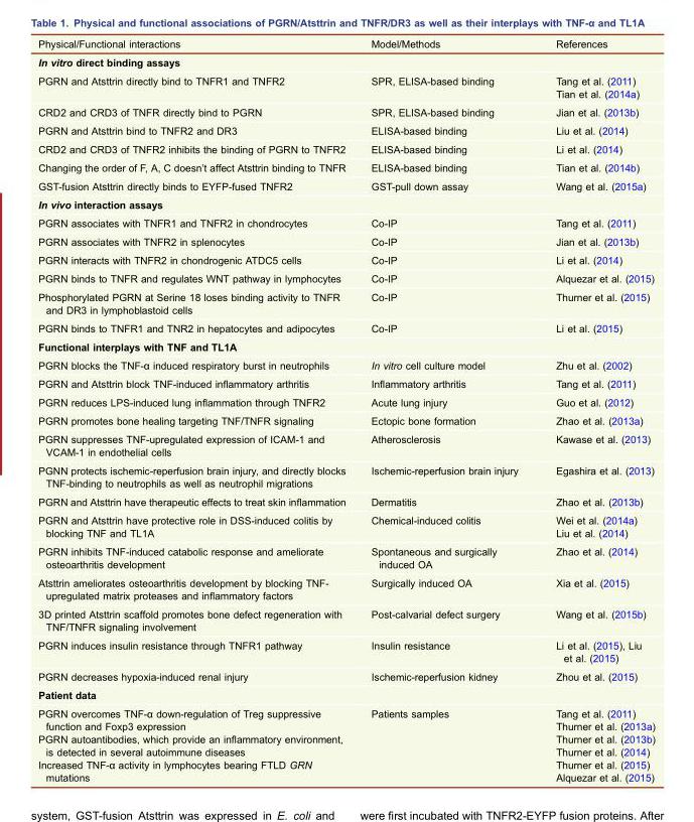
<table><thead><tr><td>Physical/Functional interactions</td><td>Model/Methods</td><td>References</td></tr></thead><tbody><tr><td colspan="3">In vitro direct binding assays</td></tr><tr><td>PGRN and Atsttrin directly bind to TNFR1 and TNFR2</td><td>SPR, ELISA-based binding</td><td>Tang et al. (2011) Tian et al. (2014a)</td></tr><tr><td>CRD2 and CRD3 of TNFR directly bind to PGRN</td><td>SPR, ELISA-based binding</td><td>Jian et al. (2013b)</td></tr><tr><td>PGRN and Atsttrin bind to TNFR2 and DR3</td><td>ELISA-based binding</td><td>Liu et al. (2014)</td></tr><tr><td>CRD2 and CRD3 of TNFR2 inhibits the binding of PGRN to TNFR2</td><td>ELISA-based binding</td><td>Li et al. (2014)</td></tr><tr><td>Changing the order of F, A, C doesn’t affect Atsttrin binding to TNFR</td><td>ELISA-based binding</td><td>Tian et al. (2014b)</td></tr><tr><td>GST-fusion Atsttrin directly binds to EYFP-fused TNFR2</td><td>GST-pull down assay</td><td>Wang et al. (2015a)</td></tr><tr><td colspan="3">In vivo interaction assays</td></tr><tr><td>PGRN associates with TNFR1 and TNFR2 in chondrocytes</td><td>Co-IP</td><td>Tang et al. (2011)</td></tr><tr><td>PGRN associates with TNFR2 in splenocytes</td><td>Co-IP</td><td>Jian et al. (2013b)</td></tr><tr><td>PGRN interacts with TNFR2 in chondrogenic ATDC5 cells</td><td>Co-IP</td><td>Li et al. (2014)</td></tr><tr><td>PGRN binds to TNFR and regulates WNT pathway in lymphocytes</td><td>Co-IP</td><td>Alquezar et al. (2015)</td></tr><tr><td>Phosphorylated PGRN at Serine 18 loses binding activity to TNFR and DR3 in lymphoblastoid cells</td><td>Co-IP</td><td>Thurner et al. (2015)</td></tr><tr><td>PGRN binds to TNFR1 and TNR2 in hepatocytes and adipocytes</td><td>Co-IP</td><td>Li et al. (2015)</td></tr><tr><td colspan="3">Functional interplays with TNF and TL1A</td></tr><tr><td>PGRN blocks the TNF-α induced respiratory burst in neutrophils</td><td>In vitro cell culture model</td><td>Zhu et al. (2002)</td></tr><tr><td>PGRN and Atsttrin block TNF-induced inflammatory arthritis</td><td>Inflammatory arthritis</td><td>Tang et al. (2011)</td></tr><tr><td>PGRN reduces LPS-induced lung inflammation through TNFR2</td><td>Acute lung injury</td><td>Guo et al. (2012)</td></tr><tr><td>PGRN promotes bone healing targeting TNF/TNFR signaling</td><td>Ectopic bone formation</td><td>Zhao et al. (2013a)</td></tr><tr><td>PGRN suppresses TNF-upregulated expression of ICAM-1 and VCAM-1 in endothelial cells</td><td>Atherosclerosis</td><td>Kawase et al. (2013)</td></tr><tr><td>PGNN protects ischemic-reperfusion brain injury, and directly blocks TNF-binding to neutrophils as well as neutrophil migrations</td><td>Ischemic-reperfusion brain injury</td><td>Egashira et al. (2013)</td></tr><tr><td>PGRN and Atsttrin have therapeutic effects to treat skin inflammation</td><td>Dermatitis</td><td>Zhao et al. (2013b)</td></tr><tr><td>PGRN and Atsttrin have protective role in DSS-induced colitis by blocking TNF and TL1A</td><td>Chemical-induced colitis</td><td>Wei et al. (2014a) Liu et al. (2014)</td></tr><tr><td>PGRN inhibits TNF-induced catabolic response and ameliorate osteoarthritis development</td><td>Spontaneous and surgically induced OA</td><td>Zhao et al. (2014)</td></tr><tr><td>Atsttrin ameliorates osteoarthritis development by blocking TNF- upregulated matrix proteases and inflammatory factors</td><td>Surgically induced OA</td><td>Xia et al. (2015)</td></tr><tr><td>3D printed Atsttrin scaffold promotes bone defect regeneration with TNF/TNFR signaling involvement</td><td>Post-calvarial defect surgery</td><td>Wang et al. (2015b)</td></tr><tr><td>PGRN induces insulin resistance through TNFR1 pathway</td><td>Insulin resistance</td><td>Li et al. (2015), Liu et al. (2015)</td></tr><tr><td>PGRN decreases hypoxia-induced renal injury</td><td>Ischemic-reperfusion kidney</td><td>Zhou et al. (2015)</td></tr><tr><td colspan="3">Patient data</td></tr><tr><td>PGRN overcomes TNF-α down-regulation of Treg suppressive function and Foxp3 expression PGRN autoantibodies, which provide an inflammatory environment, is detected in several autoimmune diseases Increased TNF-α activity in lymphocytes bearing FTLD GRN mutations</td><td>Patients samples</td><td>Tang et al. (2011) Thurner et al. (2013a) Thurner et al. (2013b) Thurner et al. (2014) Thurner et al. (2015) Alquezar et al. (2015)</td></tr></tbody></table>